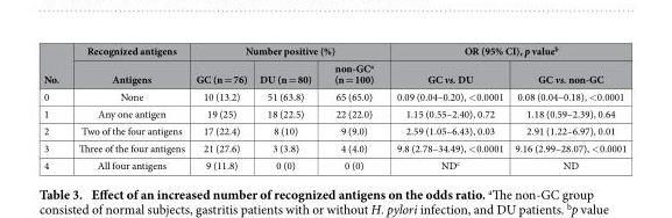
<table><thead><tr><td rowspan="2">No.</td><td rowspan="2">Recognized antigens Antigens</td><td colspan="3">Number positive (%)</td><td colspan="2">OR (95% CI), p value<sup>b</sup></td></tr><tr><td>GC (n = 76)</td><td>DU (n = 80)</td><td>non-GC<sup>a</sup> (n = 100)</td><td>GC vs. DU</td><td>GC vs. non-GC</td></tr></thead><tbody><tr><td>0</td><td>None</td><td>10 (13.2)</td><td>51 (63.8)</td><td>65 (65.0)</td><td>0.09 (0.04–0.20), &lt; 0.0001</td><td>0.08 (0.04–0.18), &lt; 0.0001</td></tr><tr><td>1</td><td>Any one antigen</td><td>19 (25)</td><td>18 (22.5)</td><td>22 (22.0)</td><td>1.15 (0.55–2.40), 0.72</td><td>1.18 (0.59–2.39), 0.64</td></tr><tr><td>2</td><td>Two of the four antigens</td><td>17 (22.4)</td><td>8 (10)</td><td>9 (9.0)</td><td>2.59 (1.05–6.43), 0.03</td><td>2.91 (1.22–6.97), 0.01</td></tr><tr><td>3</td><td>Three of the four antigens</td><td>21 (27.6)</td><td>3 (3.8)</td><td>4 (4.0)</td><td>9.8 (2.78–34.49), &lt; 0.0001</td><td>9.16 (2.99–28.07), &lt; 0.0001</td></tr><tr><td>4</td><td>All four antigens</td><td>9 (11.8)</td><td>0 (0)</td><td>0 (0)</td><td>ND<sup>c</sup></td><td>ND</td></tr></tbody></table>